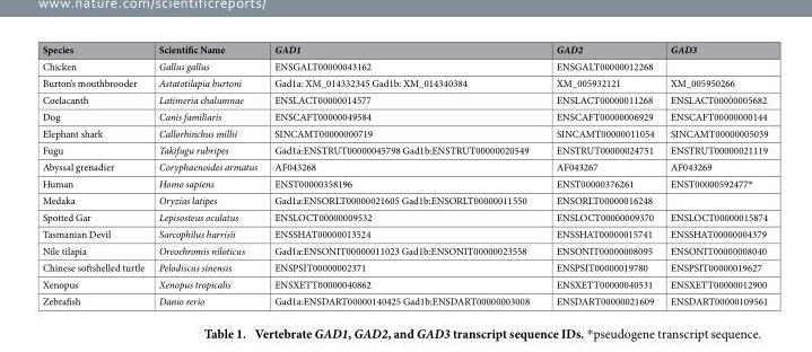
<table><thead><tr><td>Species</td><td>Scientific Name</td><td>GAD1</td><td>GAD2</td><td>GAD3</td></tr></thead><tbody><tr><td>Chicken</td><td>Gallus gallus</td><td>ENSGALT00000043162</td><td>ENSGALT00000012268</td><td></td></tr><tr><td>Burton’s mouthbrooder</td><td>Astatotilapia burtoni</td><td>Gad1a: XM_014332345 Gad1b: XM_014340384</td><td>XM_005932121</td><td>XM_005950266</td></tr><tr><td>Coelacanth</td><td>Latimeria chalumnae</td><td>ENSLACT00000014577</td><td>ENSLACT00000011268</td><td>ENSLACT00000005682</td></tr><tr><td>Dog</td><td>Canis familiaris</td><td>ENSCAFT00000049584</td><td>ENSCAFT00000006929</td><td>ENSCAFT00000000144</td></tr><tr><td>Elephant shark</td><td>Callorhinchus millii</td><td>SINCAMT00000000719</td><td>SINCAMT00000011054</td><td>SINCAMT00000005039</td></tr><tr><td>Fugu</td><td>Takifugu rubripes</td><td>Gad1a:ENSTRUT00000045798 Gad1b:ENSTRUT00000020549</td><td>ENSTRUT00000024751</td><td>ENSTRUT00000021119</td></tr><tr><td>Abyssal grenadier</td><td>Coryphaenoides armatus</td><td>AF043268</td><td>AF043267</td><td>AF043269</td></tr><tr><td>Human</td><td>Homo sapiens</td><td>ENST00000358196</td><td>ENST00000376261</td><td>ENST00000592477*</td></tr><tr><td>Medaka</td><td>Oryzias latipes</td><td>Gad1a:ENSORLT00000021605 Gad1b:ENSORLT00000011550</td><td>ENSORLT00000016248</td><td></td></tr><tr><td>Spotted Gar</td><td>Lepisosteus oculatus</td><td>ENSLOCT00000009532</td><td>ENSLOCT00000009370</td><td>ENSLOCT00000015874</td></tr><tr><td>Tasmanian Devil</td><td>Sarcophilus harrisii</td><td>ENSSHAT00000013524</td><td>ENSSHAT00000015741</td><td>ENSSHAT00000004379</td></tr><tr><td>Nile tilapia</td><td>Oreochromis niloticus</td><td>Gad1a:ENSONIT00000011023 Gad1b:ENSONIT00000023558</td><td>ENSONIT00000008095</td><td>ENSONIT00000008040</td></tr><tr><td>Chinese softshelled turtle</td><td>Pelodiscus sinensis</td><td>ENSPSIT00000002371</td><td>ENSPSIT00000019780</td><td>ENSPSIT00000019627</td></tr><tr><td>Xenopus</td><td>Xenopus tropicalis</td><td>ENSXETT00000040862</td><td>ENSXETT00000040531</td><td>ENSXETT00000012900</td></tr><tr><td>Zebrafish</td><td>Danio rerio</td><td>Gad1a:ENSDART00000140425 Gad1b:ENSDART00000003008</td><td>ENSDART00000021609</td><td>ENSDART00000109561</td></tr></tbody></table>